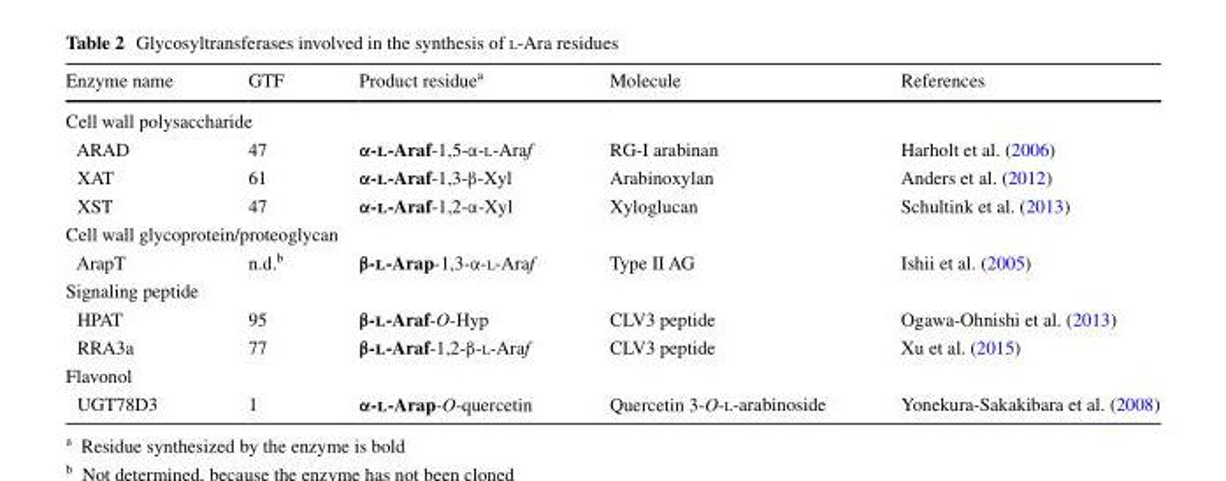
<table><thead><tr><td>Enzyme name</td><td>GTF</td><td>Product residue<sup>a</sup></td><td>Molecule</td><td>References</td></tr></thead><tbody><tr><td colspan="5">Cell wall polysaccharide</td></tr><tr><td>ARAD</td><td>47</td><td>α‑l‑Araf-1,5-α-l-Araf</td><td>RG-I arabinan</td><td>Harholt et al. (2006)</td></tr><tr><td>XAT</td><td>61</td><td>α‑l‑Araf-1,3-β-Xyl</td><td>Arabinoxylan</td><td>Anders et al. (2012)</td></tr><tr><td>XST</td><td>47</td><td>α‑l‑Araf-1,2-α-Xyl</td><td>Xyloglucan</td><td>Schultink et al. (2013)</td></tr><tr><td colspan="5">Cell wall glycoprotein/proteoglycan</td></tr><tr><td>ArapT</td><td>n.d.<sup>b</sup></td><td>β‑l‑Arap-1,3-α-l-Araf</td><td>Type II AG</td><td>Ishii et al. (2005)</td></tr><tr><td colspan="5">Signaling peptide</td></tr><tr><td>HPAT</td><td>95</td><td>β‑l‑Araf-O-Hyp</td><td>CLV3 peptide</td><td>Ogawa-Ohnishi et al. (2013)</td></tr><tr><td>RRA3a</td><td>77</td><td>β‑l‑Araf-1,2-β-l-Araf</td><td>CLV3 peptide</td><td>Xu et al. (2015)</td></tr><tr><td colspan="5">Flavonol</td></tr><tr><td>UGT78D3</td><td>1</td><td>α‑l‑Arap-O-quercetin</td><td>Quercetin 3-O-l-arabinoside</td><td>Yonekura-Sakakibara et al. (2008)</td></tr></tbody></table>